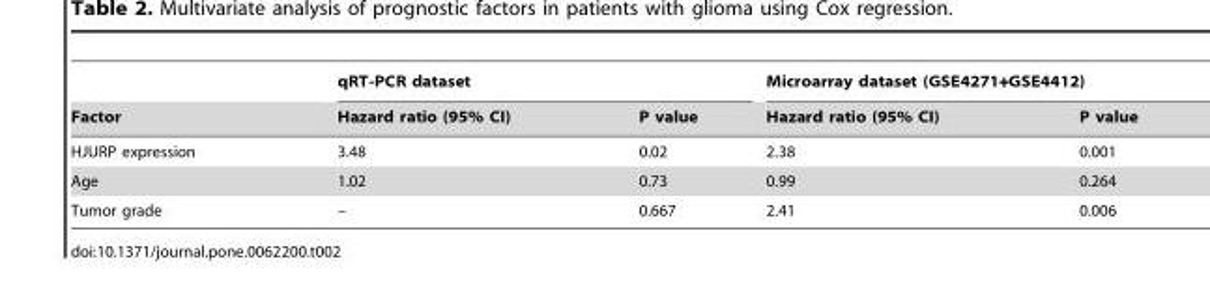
<table><thead><tr><td rowspan="2">Factor</td><td colspan="2">qRT-PCR dataset</td><td colspan="2">Microarray dataset (GSE4271+GSE4412)</td></tr><tr><td>Hazard ratio (95% CI)</td><td>P value</td><td>Hazard ratio (95% CI)</td><td>P value</td></tr></thead><tbody><tr><td>HJURP expression</td><td>3.48</td><td>0.02</td><td>2.38</td><td>0.001</td></tr><tr><td>Age</td><td>1.02</td><td>0.73</td><td>0.99</td><td>0.264</td></tr><tr><td>Tumor grade</td><td>–</td><td>0.667</td><td>2.41</td><td>0.006</td></tr></tbody></table>